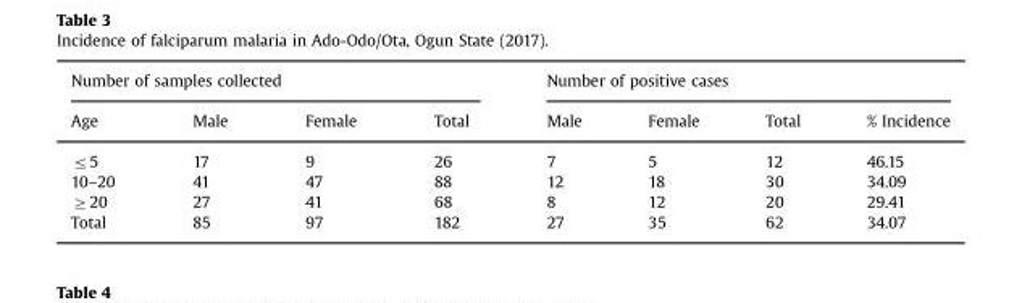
<table><thead><tr><td colspan="4">Number of samples collected</td><td colspan="4">Number of positive cases</td></tr><tr><td>Age</td><td>Male</td><td>Female</td><td>Total</td><td>Male</td><td>Female</td><td>Total</td><td>% Incidence</td></tr></thead><tbody><tr><td>≤5</td><td>17</td><td>9</td><td>26</td><td>7</td><td>5</td><td>12</td><td>46.15</td></tr><tr><td>10–20</td><td>41</td><td>47</td><td>88</td><td>12</td><td>18</td><td>30</td><td>34.09</td></tr><tr><td>≥20</td><td>27</td><td>41</td><td>68</td><td>8</td><td>12</td><td>20</td><td>29.41</td></tr><tr><td>Total</td><td>85</td><td>97</td><td>182</td><td>27</td><td>35</td><td>62</td><td>34.07</td></tr></tbody></table>